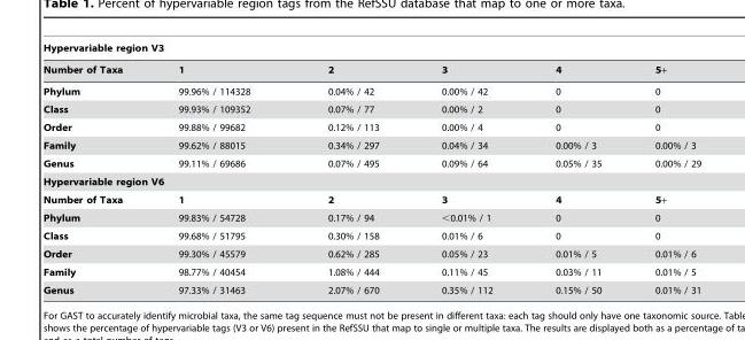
<table><thead><tr><td colspan="6">Hypervariable region V3</td></tr><tr><td>Number of Taxa</td><td>1</td><td>2</td><td>3</td><td>4</td><td>5+</td></tr></thead><tbody><tr><td>Phylum</td><td>99.96% / 114328</td><td>0.04% / 42</td><td>0.00% / 42</td><td>0</td><td>0</td></tr><tr><td>Class</td><td>99.93% / 109352</td><td>0.07% / 77</td><td>0.00% / 2</td><td>0</td><td>0</td></tr><tr><td>Order</td><td>99.88% / 99682</td><td>0.12% / 113</td><td>0.00% / 4</td><td>0</td><td>0</td></tr><tr><td>Family</td><td>99.62% / 88015</td><td>0.34% / 297</td><td>0.04% / 34</td><td>0.00% / 3</td><td>0.00% / 3</td></tr><tr><td>Genus</td><td>99.11% / 69686</td><td>0.07% / 495</td><td>0.09% / 64</td><td>0.05% / 35</td><td>0.00% / 29</td></tr><tr><td colspan="6">Hypervariable region V6</td></tr><tr><td>Number of Taxa</td><td>1</td><td>2</td><td>3</td><td>4</td><td>5+</td></tr><tr><td>Phylum</td><td>99.83% / 54728</td><td>0.17% / 94</td><td>&lt;0.01% / 1</td><td>0</td><td>0</td></tr><tr><td>Class</td><td>99.68% / 51795</td><td>0.30% / 158</td><td>0.01% / 6</td><td>0</td><td>0</td></tr><tr><td>Order</td><td>99.30% / 45579</td><td>0.62% / 285</td><td>0.05% / 23</td><td>0.01% / 5</td><td>0.01% / 6</td></tr><tr><td>Family</td><td>98.77% / 40454</td><td>1.08% / 444</td><td>0.11% / 45</td><td>0.03% / 11</td><td>0.01% / 5</td></tr><tr><td>Genus</td><td>97.33% / 31463</td><td>2.07% / 670</td><td>0.35% / 112</td><td>0.15% / 50</td><td>0.01% / 31</td></tr></tbody></table>